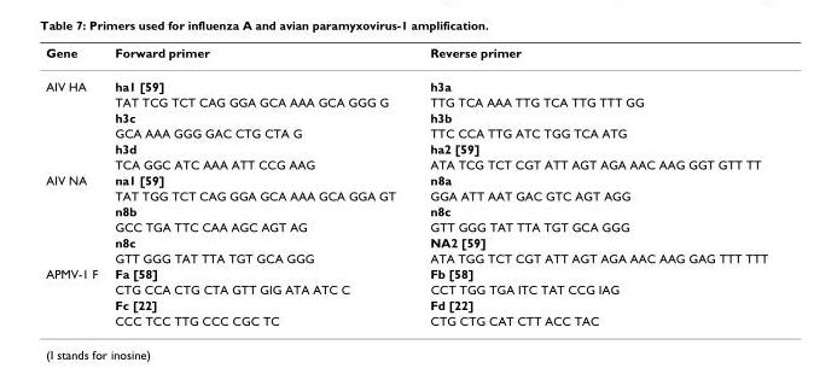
<table><thead><tr><td>Gene</td><td>Forward primer</td><td>Reverse primer</td></tr></thead><tbody><tr><td rowspan="6">AIV HA</td><td>ha1 [59]</td><td>h3a</td></tr><tr><td>TAT TCG TCT CAG GGA GCA AAA GCA GGG G</td><td>TTG TCA AAA TTG TCA TTG TTT GG</td></tr><tr><td>h3c</td><td>h3b</td></tr><tr><td>GCA AAA GGG GAC CTG CTA G</td><td>TTC CCA TTG ATC TGG TCA ATG</td></tr><tr><td>h3d</td><td>ha2 [59]</td></tr><tr><td>TCA GGC ATC AAA ATT CCG AAG</td><td>ATA TCG TCT CGT ATT AGT AGA AAC AAG GGT GTT TT</td></tr><tr><td rowspan="6">AIV NA</td><td>na1 [59]</td><td>n8a</td></tr><tr><td>TAT TGG TCT CAG GGA GCA AAA GCA GGA GT</td><td>GGA ATT AAT GAC GTC AGT AGG</td></tr><tr><td>n8b</td><td>n8c</td></tr><tr><td>GCC TGA TTC CAA AGC AGT AG</td><td>GTT GGG TAT TTA TGT GCA GGG</td></tr><tr><td>n8c</td><td>NA2 [59]</td></tr><tr><td>GTT GGG TAT TTA TGT GCA GGG</td><td>ATA TGG TCT CGT ATT AGT AGA AAC AAG GAG TTT TTT</td></tr><tr><td rowspan="4">APMV-1 F</td><td>Fa [58]</td><td>Fb [58]</td></tr><tr><td>CTG CCA CTG CTA GTT GIG ATA ATC C</td><td>CCT TGG TGA ITC TAT CCG IAG</td></tr><tr><td>Fc [22]</td><td>Fd [22]</td></tr><tr><td>CCC TCC TTG CCC CGC TC</td><td>CTG CTG CAT CTT ACC TAC</td></tr></tbody></table>